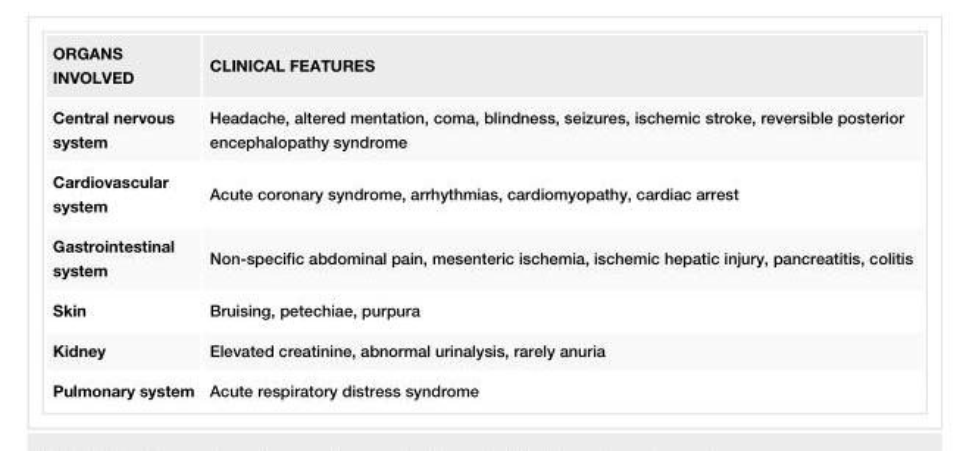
<table><tbody><tr><td>ORGANS INVOLVED</td><td>CLINICAL FEATURES</td></tr><tr><td>Central nervous system</td><td>Headache, altered mentation, coma, blindness, seizures, ischemic stroke, reversible posterior encephalopathy syndrome</td></tr><tr><td>Cardiovascular system</td><td>Acute coronary syndrome, arrhythmias, cardiomyopathy, cardiac arrest</td></tr><tr><td>Gastrointestinal system</td><td>Non-specific abdominal pain, mesenteric ischemia, ischemic hepatic injury, pancreatitis, colitis</td></tr><tr><td>Skin</td><td>Bruising, petechiae, purpura</td></tr><tr><td>Kidney</td><td>Elevated creatinine, abnormal urinalysis, rarely anuria</td></tr><tr><td>Pulmonary system</td><td>Acute respiratory distress syndrome</td></tr></tbody></table>